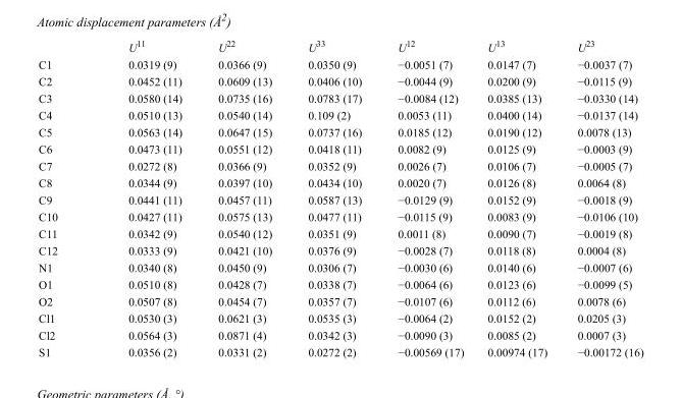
<table><thead><tr><td></td><td>U<sup>11</sup></td><td>U<sup>22</sup></td><td>U<sup>33</sup></td><td>U<sup>12</sup></td><td>U<sup>13</sup></td><td>U<sup>23</sup></td></tr></thead><tbody><tr><td>C1</td><td>0.0319 (9)</td><td>0.0366 (9)</td><td>0.0350 (9)</td><td>−0.0051 (7)</td><td>0.0147 (7)</td><td>−0.0037 (7)</td></tr><tr><td>C2</td><td>0.0452 (11)</td><td>0.0609 (13)</td><td>0.0406 (10)</td><td>−0.0044 (9)</td><td>0.0200 (9)</td><td>−0.0115 (9)</td></tr><tr><td>C3</td><td>0.0580 (14)</td><td>0.0735 (16)</td><td>0.0783 (17)</td><td>−0.0084 (12)</td><td>0.0385 (13)</td><td>−0.0330 (14)</td></tr><tr><td>C4</td><td>0.0510 (13)</td><td>0.0540 (14)</td><td>0.109 (2)</td><td>0.0053 (11)</td><td>0.0400 (14)</td><td>−0.0137 (14)</td></tr><tr><td>C5</td><td>0.0563 (14)</td><td>0.0647 (15)</td><td>0.0737 (16)</td><td>0.0185 (12)</td><td>0.0190 (12)</td><td>0.0078 (13)</td></tr><tr><td>C6</td><td>0.0473 (11)</td><td>0.0551 (12)</td><td>0.0418 (11)</td><td>0.0082 (9)</td><td>0.0125 (9)</td><td>−0.0003 (9)</td></tr><tr><td>C7</td><td>0.0272 (8)</td><td>0.0366 (9)</td><td>0.0352 (9)</td><td>0.0026 (7)</td><td>0.0106 (7)</td><td>−0.0005 (7)</td></tr><tr><td>C8</td><td>0.0344 (9)</td><td>0.0397 (10)</td><td>0.0434 (10)</td><td>0.0020 (7)</td><td>0.0126 (8)</td><td>0.0064 (8)</td></tr><tr><td>C9</td><td>0.0441 (11)</td><td>0.0457 (11)</td><td>0.0587 (13)</td><td>−0.0129 (9)</td><td>0.0152 (9)</td><td>−0.0018 (9)</td></tr><tr><td>C10</td><td>0.0427 (11)</td><td>0.0575 (13)</td><td>0.0477 (11)</td><td>−0.0115 (9)</td><td>0.0083 (9)</td><td>−0.0106 (10)</td></tr><tr><td>C11</td><td>0.0342 (9)</td><td>0.0540 (12)</td><td>0.0351 (9)</td><td>0.0011 (8)</td><td>0.0090 (7)</td><td>−0.0019 (8)</td></tr><tr><td>C12</td><td>0.0333 (9)</td><td>0.0421 (10)</td><td>0.0376 (9)</td><td>−0.0028 (7)</td><td>0.0118 (8)</td><td>0.0004 (8)</td></tr><tr><td>N1</td><td>0.0340 (8)</td><td>0.0450 (9)</td><td>0.0306 (7)</td><td>−0.0030 (6)</td><td>0.0140 (6)</td><td>−0.0007 (6)</td></tr><tr><td>O1</td><td>0.0510 (8)</td><td>0.0428 (7)</td><td>0.0338 (7)</td><td>−0.0064 (6)</td><td>0.0123 (6)</td><td>−0.0099 (5)</td></tr><tr><td>O2</td><td>0.0507 (8)</td><td>0.0454 (7)</td><td>0.0357 (7)</td><td>−0.0107 (6)</td><td>0.0112 (6)</td><td>0.0078 (6)</td></tr><tr><td>Cl1</td><td>0.0530 (3)</td><td>0.0621 (3)</td><td>0.0535 (3)</td><td>−0.0064 (2)</td><td>0.0152 (2)</td><td>0.0205 (3)</td></tr><tr><td>Cl2</td><td>0.0564 (3)</td><td>0.0871 (4)</td><td>0.0342 (3)</td><td>−0.0090 (3)</td><td>0.0085 (2)</td><td>0.0007 (3)</td></tr><tr><td>S1</td><td>0.0356 (2)</td><td>0.0331 (2)</td><td>0.0272 (2)</td><td>−0.00569 (17)</td><td>0.00974 (17)</td><td>−0.00172 (16)</td></tr></tbody></table>